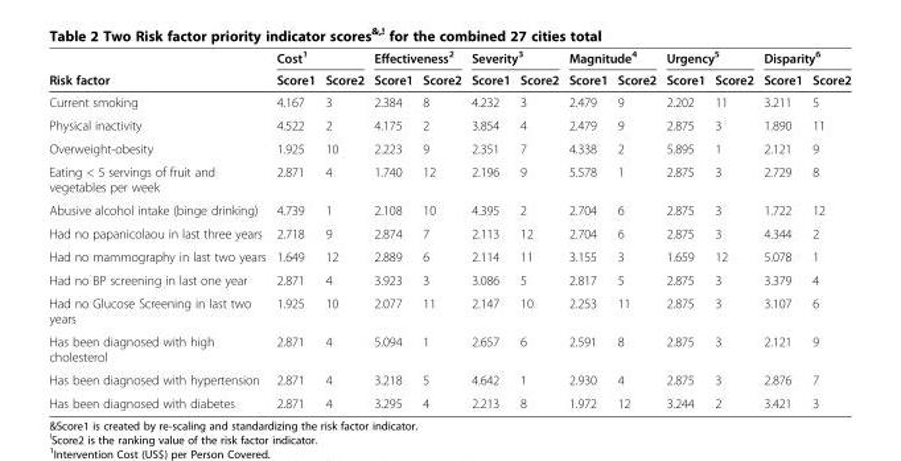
<table><thead><tr><td rowspan="2">Risk factor</td><td colspan="2">Cost<sup>1</sup></td><td colspan="2">Effectiveness<sup>2</sup></td><td colspan="2">Severity<sup>3</sup></td><td colspan="2">Magnitude<sup>4</sup></td><td colspan="2">Urgency<sup>5</sup></td><td colspan="2">Disparity<sup>6</sup></td></tr><tr><td>Score1</td><td>Score2</td><td>Score1</td><td>Score2</td><td>Score1</td><td>Score2</td><td>Score1</td><td>Score2</td><td>Score1</td><td>Score2</td><td>Score1</td><td>Score2</td></tr></thead><tbody><tr><td>Current smoking</td><td>4.167</td><td>3</td><td>2.384</td><td>8</td><td>4.232</td><td>3</td><td>2.479</td><td>9</td><td>2.202</td><td>11</td><td>3.211</td><td>5</td></tr><tr><td>Physical inactivity</td><td>4.522</td><td>2</td><td>4.175</td><td>2</td><td>3.854</td><td>4</td><td>2.479</td><td>9</td><td>2.875</td><td>3</td><td>1.890</td><td>11</td></tr><tr><td>Overweight-obesity</td><td>1.925</td><td>10</td><td>2.223</td><td>9</td><td>2.351</td><td>7</td><td>4.338</td><td>2</td><td>5.895</td><td>1</td><td>2.121</td><td>9</td></tr><tr><td>Eating &lt; 5 servings of fruit and vegetables per week</td><td>2.871</td><td>4</td><td>1.740</td><td>12</td><td>2.196</td><td>9</td><td>5.578</td><td>1</td><td>2.875</td><td>3</td><td>2.729</td><td>8</td></tr><tr><td>Abusive alcohol intake (binge drinking)</td><td>4.739</td><td>1</td><td>2.108</td><td>10</td><td>4.395</td><td>2</td><td>2.704</td><td>6</td><td>2.875</td><td>3</td><td>1.722</td><td>12</td></tr><tr><td>Had no papanicolaou in last three years</td><td>2.718</td><td>9</td><td>2.874</td><td>7</td><td>2.113</td><td>12</td><td>2.704</td><td>6</td><td>2.875</td><td>3</td><td>4.344</td><td>2</td></tr><tr><td>Had no mammography in last two years</td><td>1.649</td><td>12</td><td>2.889</td><td>6</td><td>2.114</td><td>11</td><td>3.155</td><td>3</td><td>1.659</td><td>12</td><td>5.078</td><td>1</td></tr><tr><td>Had no BP screening in last one year</td><td>2.871</td><td>4</td><td>3.923</td><td>3</td><td>3.086</td><td>5</td><td>2.817</td><td>5</td><td>2.875</td><td>3</td><td>3.379</td><td>4</td></tr><tr><td>Had no Glucose Screening in last two years</td><td>1.925</td><td>10</td><td>2.077</td><td>11</td><td>2.147</td><td>10</td><td>2.253</td><td>11</td><td>2.875</td><td>3</td><td>3.107</td><td>6</td></tr><tr><td>Has been diagnosed with high cholesterol</td><td>2.871</td><td>4</td><td>5.094</td><td>1</td><td>2.657</td><td>6</td><td>2.591</td><td>8</td><td>2.875</td><td>3</td><td>2.121</td><td>9</td></tr><tr><td>Has been diagnosed with hypertension</td><td>2.871</td><td>4</td><td>3.218</td><td>5</td><td>4.642</td><td>1</td><td>2.930</td><td>4</td><td>2.875</td><td>3</td><td>2.876</td><td>7</td></tr><tr><td>Has been diagnosed with diabetes</td><td>2.871</td><td>4</td><td>3.295</td><td>4</td><td>2.213</td><td>8</td><td>1.972</td><td>12</td><td>3.244</td><td>2</td><td>3.421</td><td>3</td></tr></tbody></table>